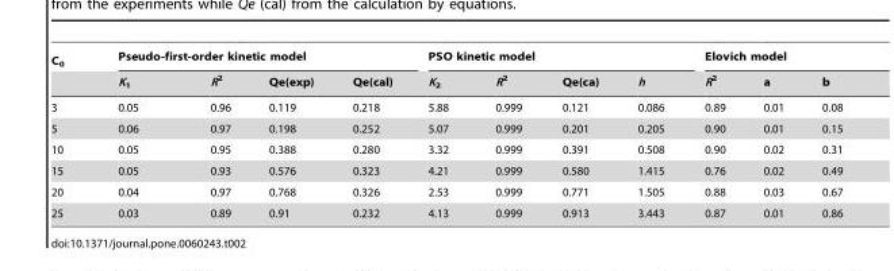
<table><thead><tr><td rowspan="2">C<sub>0</sub></td><td colspan="4">Pseudo-first-order kinetic model</td><td colspan="4">PSO kinetic model</td><td colspan="3">Elovich model</td></tr><tr><td>K<sub>1</sub></td><td>R<sup>2</sup></td><td>Qe(exp)</td><td>Qe(cal)</td><td>K<sub>2</sub></td><td>R<sup>2</sup></td><td>Qe(ca)</td><td>h</td><td>R<sup>2</sup></td><td>a</td><td>b</td></tr></thead><tbody><tr><td>3</td><td>0.05</td><td>0.96</td><td>0.119</td><td>0.218</td><td>5.88</td><td>0.999</td><td>0.121</td><td>0.086</td><td>0.89</td><td>0.01</td><td>0.08</td></tr><tr><td>5</td><td>0.06</td><td>0.97</td><td>0.198</td><td>0.252</td><td>5.07</td><td>0.999</td><td>0.201</td><td>0.205</td><td>0.90</td><td>0.01</td><td>0.15</td></tr><tr><td>10</td><td>0.05</td><td>0.95</td><td>0.388</td><td>0.280</td><td>3.32</td><td>0.999</td><td>0.391</td><td>0.508</td><td>0.90</td><td>0.02</td><td>0.31</td></tr><tr><td>15</td><td>0.05</td><td>0.93</td><td>0.576</td><td>0.323</td><td>4.21</td><td>0.999</td><td>0.580</td><td>1.415</td><td>0.76</td><td>0.02</td><td>0.49</td></tr><tr><td>20</td><td>0.04</td><td>0.97</td><td>0.768</td><td>0.326</td><td>2.53</td><td>0.999</td><td>0.771</td><td>1.505</td><td>0.88</td><td>0.03</td><td>0.67</td></tr><tr><td>25</td><td>0.03</td><td>0.89</td><td>0.91</td><td>0.232</td><td>4.13</td><td>0.999</td><td>0.913</td><td>3.443</td><td>0.87</td><td>0.01</td><td>0.86</td></tr></tbody></table>